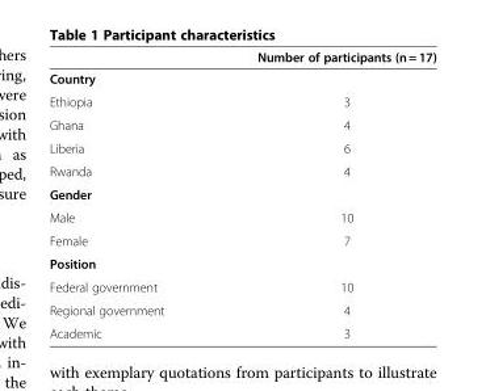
<table><thead><tr><td></td><td>Number of participants (n = 17)</td></tr></thead><tbody><tr><td colspan="2">Country</td></tr><tr><td>Ethiopia</td><td>3</td></tr><tr><td>Ghana</td><td>4</td></tr><tr><td>Liberia</td><td>6</td></tr><tr><td>Rwanda</td><td>4</td></tr><tr><td colspan="2">Gender</td></tr><tr><td>Male</td><td>10</td></tr><tr><td>Female</td><td>7</td></tr><tr><td colspan="2">Position</td></tr><tr><td>Federal government</td><td>10</td></tr><tr><td>Regional government</td><td>4</td></tr><tr><td>Academic</td><td>3</td></tr></tbody></table>